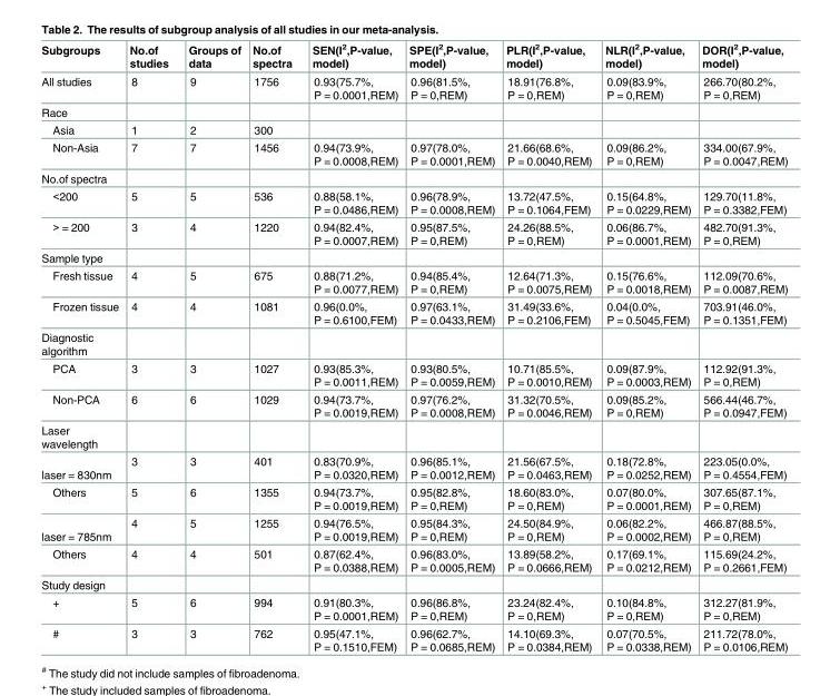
<table><thead><tr><td>Subgroups</td><td>No.of studies</td><td>Groups of data</td><td>No.of spectra</td><td>SEN(I<sup>2</sup>,P-value, model)</td><td>SPE(I<sup>2</sup>,P-value, model)</td><td>PLR(I<sup>2</sup>,P-value, model)</td><td>NLR(I<sup>2</sup>,P-value, model)</td><td>DOR(I<sup>2</sup>,P-value, model)</td></tr></thead><tbody><tr><td>All studies</td><td>8</td><td>9</td><td>1756</td><td>0.93(75.7%, P = 0.0001,REM)</td><td>0.96(81.5%, P = 0,REM)</td><td>18.91(76.8%, P = 0,REM)</td><td>0.09(83.9%, P = 0,REM)</td><td>266.70(80.2%, P = 0,REM)</td></tr><tr><td colspan="9">Race</td></tr><tr><td>Asia</td><td>1</td><td>2</td><td>300</td><td></td><td></td><td></td><td></td><td></td></tr><tr><td>Non-Asia</td><td>7</td><td>7</td><td>1456</td><td>0.94(73.9%, P = 0.0008,REM)</td><td>0.97(78.0%, P = 0.0001,REM)</td><td>21.66(68.6%, P = 0.0040,REM)</td><td>0.09(86.2%, P = 0,REM)</td><td>334.00(67.9%, P = 0.0047,REM)</td></tr><tr><td colspan="9">No.of spectra</td></tr><tr><td>&lt;200</td><td>5</td><td>5</td><td>536</td><td>0.88(58.1%, P = 0.0486,REM)</td><td>0.96(78.9%, P = 0.0008,REM)</td><td>13.72(47.5%, P = 0.1064,FEM)</td><td>0.15(64.8%, P = 0.0229,REM)</td><td>129.70(11.8%, P = 0.3382,FEM)</td></tr><tr><td>&gt; = 200</td><td>3</td><td>4</td><td>1220</td><td>0.94(82.4%, P = 0.0007,REM)</td><td>0.95(87.5%, P = 0,REM)</td><td>24.26(88.5%, P = 0,REM)</td><td>0.06(86.7%, P = 0.0001,REM)</td><td>482.70(91.3%, P = 0,REM)</td></tr><tr><td colspan="9">Sample type</td></tr><tr><td>Fresh tissue</td><td>4</td><td>5</td><td>675</td><td>0.88(71.2%, P = 0.0077,REM)</td><td>0.94(85.4%, P = 0,REM)</td><td>12.64(71.3%, P = 0.0075,REM)</td><td>0.15(76.6%, P = 0.0018,REM)</td><td>112.09(70.6%, P = 0.0087,REM)</td></tr><tr><td>Frozen tissue</td><td>4</td><td>4</td><td>1081</td><td>0.96(0.0%, P = 0.6100,FEM)</td><td>0.97(63.1%, P = 0.0433,REM)</td><td>31.49(33.6%, P = 0.2106,FEM)</td><td>0.04(0.0%, P = 0.5045,FEM)</td><td>703.91(46.0%, P = 0.1351,FEM)</td></tr><tr><td colspan="9">Diagnostic algorithm</td></tr><tr><td>PCA</td><td>3</td><td>3</td><td>1027</td><td>0.93(85.3%, P = 0.0011,REM)</td><td>0.93(80.5%, P = 0.0059,REM)</td><td>10.71(85.5%, P = 0.0010,REM)</td><td>0.09(87.9%, P = 0.0003,REM)</td><td>112.92(91.3%, P = 0,REM)</td></tr><tr><td>Non-PCA</td><td>6</td><td>6</td><td>1029</td><td>0.94(73.7%, P = 0.0019,REM)</td><td>0.97(76.2%, P = 0.0008,REM)</td><td>31.32(70.5%, P = 0.0046,REM)</td><td>0.09(85.2%, P = 0,REM)</td><td>566.44(46.7%, P = 0.0947,FEM)</td></tr><tr><td colspan="9">Laser wavelength</td></tr><tr><td>laser = 830nm</td><td>3</td><td>3</td><td>401</td><td>0.83(70.9%, P = 0.0320,REM)</td><td>0.96(85.1%, P = 0.0012,REM)</td><td>21.56(67.5%, P = 0.0463,REM)</td><td>0.18(72.8%, P = 0.0252,REM)</td><td>223.05(0.0%, P = 0.4554,FEM)</td></tr><tr><td>Others</td><td>5</td><td>6</td><td>1355</td><td>0.94(73.7%, P = 0.0019,REM)</td><td>0.95(82.8%, P = 0,REM)</td><td>18.60(83.0%, P = 0,REM)</td><td>0.07(80.0%, P = 0.0001,REM)</td><td>307.65(87.1%, P = 0,REM)</td></tr><tr><td>laser = 785nm</td><td>4</td><td>5</td><td>1255</td><td>0.94(76.5%, P = 0.0019,REM)</td><td>0.95(84.3%, P = 0,REM)</td><td>24.50(84.9%, P = 0,REM)</td><td>0.06(82.2%, P = 0.0002,REM)</td><td>466.87(88.5%, P = 0,REM)</td></tr><tr><td>Others</td><td>4</td><td>4</td><td>501</td><td>0.87(62.4%, P = 0.0388,REM)</td><td>0.96(83.0%, P = 0.0005,REM)</td><td>13.89(58.2%, P = 0.0666,REM)</td><td>0.17(69.1%, P = 0.0212,REM)</td><td>115.69(24.2%, P = 0.2661,FEM)</td></tr><tr><td colspan="9">Study design</td></tr><tr><td>+</td><td>5</td><td>6</td><td>994</td><td>0.91(80.3%, P = 0.0001,REM)</td><td>0.96(86.8%, P = 0,REM)</td><td>23.24(82.4%, P = 0,REM)</td><td>0.10(84.8%, P = 0,REM)</td><td>312.27(81.9%, P = 0,REM)</td></tr><tr><td>#</td><td>3</td><td>3</td><td>762</td><td>0.95(47.1%, P = 0.1510,FEM)</td><td>0.96(62.7%, P = 0.0685,REM)</td><td>14.10(69.3%, P = 0.0384,REM)</td><td>0.07(70.5%, P = 0.0338,REM)</td><td>211.72(78.0%, P = 0.0106,REM)</td></tr></tbody></table>